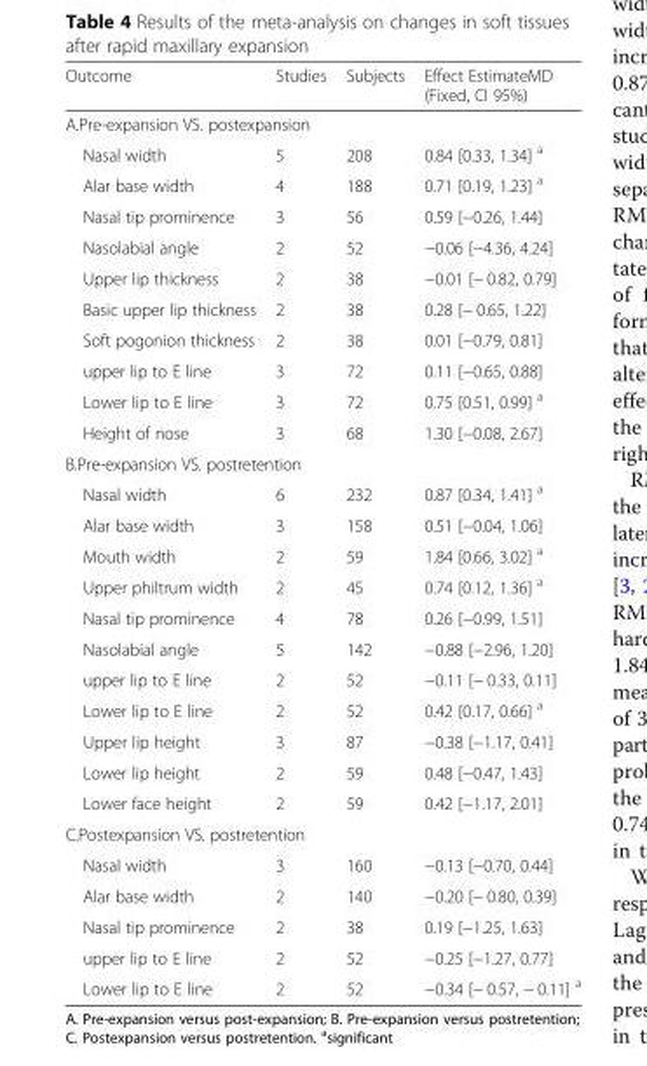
<table><thead><tr><td>Outcome</td><td>Studies</td><td>Subjects</td><td>Effect EstimateMD (Fixed, CI 95%)</td></tr></thead><tbody><tr><td colspan="4">A.Pre-expansion VS. postexpansion</td></tr><tr><td>Nasal width</td><td>5</td><td>208</td><td>0.84 [0.33, 1.34] <sup>a</sup></td></tr><tr><td>Alar base width</td><td>4</td><td>188</td><td>0.71 [0.19, 1.23] <sup>a</sup></td></tr><tr><td>Nasal tip prominence</td><td>3</td><td>56</td><td>0.59 [−0.26, 1.44]</td></tr><tr><td>Nasolabial angle</td><td>2</td><td>52</td><td>−0.06 [−4.36, 4.24]</td></tr><tr><td>Upper lip thickness</td><td>2</td><td>38</td><td>−0.01 [− 0.82, 0.79]</td></tr><tr><td>Basic upper lip thickness</td><td>2</td><td>38</td><td>0.28 [− 0.65, 1.22]</td></tr><tr><td>Soft pogonion thickness</td><td>2</td><td>38</td><td>0.01 [−0.79, 0.81]</td></tr><tr><td>upper lip to E line</td><td>3</td><td>72</td><td>0.11 [−0.65, 0.88]</td></tr><tr><td>Lower lip to E line</td><td>3</td><td>72</td><td>0.75 [0.51, 0.99] <sup>a</sup></td></tr><tr><td>Height of nose</td><td>3</td><td>68</td><td>1.30 [−0.08, 2.67]</td></tr><tr><td colspan="4">B.Pre-expansion VS. postretention</td></tr><tr><td>Nasal width</td><td>6</td><td>232</td><td>0.87 [0.34, 1.41] <sup>a</sup></td></tr><tr><td>Alar base width</td><td>3</td><td>158</td><td>0.51 [−0.04, 1.06]</td></tr><tr><td>Mouth width</td><td>2</td><td>59</td><td>1.84 [0.66, 3.02] <sup>a</sup></td></tr><tr><td>Upper philtrum width</td><td>2</td><td>45</td><td>0.74 [0.12, 1.36] <sup>a</sup></td></tr><tr><td>Nasal tip prominence</td><td>4</td><td>78</td><td>0.26 [−0.99, 1.51]</td></tr><tr><td>Nasolabial angle</td><td>5</td><td>142</td><td>−0.88 [−2.96, 1.20]</td></tr><tr><td>upper lip to E line</td><td>2</td><td>52</td><td>−0.11 [− 0.33, 0.11]</td></tr><tr><td>Lower lip to E line</td><td>2</td><td>52</td><td>0.42 [0.17, 0.66] <sup>a</sup></td></tr><tr><td>Upper lip height</td><td>3</td><td>87</td><td>−0.38 [−1.17, 0.41]</td></tr><tr><td>Lower lip height</td><td>2</td><td>59</td><td>0.48 [−0.47, 1.43]</td></tr><tr><td>Lower face height</td><td>2</td><td>59</td><td>0.42 [−1.17, 2.01]</td></tr><tr><td colspan="4">C.Postexpansion VS. postretention</td></tr><tr><td>Nasal width</td><td>3</td><td>160</td><td>−0.13 [−0.70, 0.44]</td></tr><tr><td>Alar base width</td><td>2</td><td>140</td><td>−0.20 [− 0.80, 0.39]</td></tr><tr><td>Nasal tip prominence</td><td>2</td><td>38</td><td>0.19 [−1.25, 1.63]</td></tr><tr><td>upper lip to E line</td><td>2</td><td>52</td><td>−0.25 [−1.27, 0.77]</td></tr><tr><td>Lower lip to E line</td><td>2</td><td>52</td><td>−0.34 [− 0.57, − 0.11] <sup>a</sup></td></tr></tbody></table>